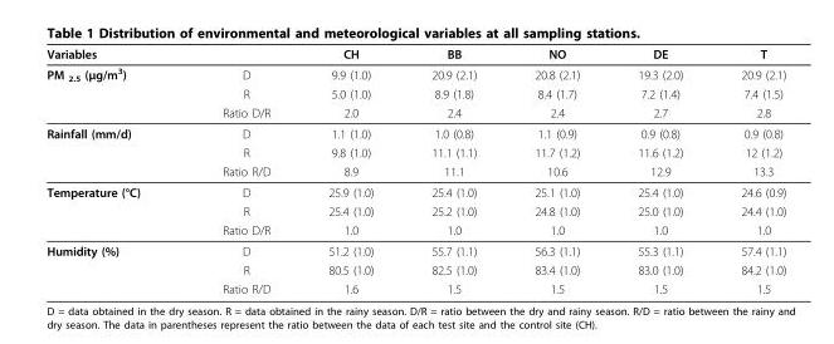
<table><thead><tr><td>Variables</td><td></td><td>CH</td><td>BB</td><td>NO</td><td>DE</td><td>T</td></tr></thead><tbody><tr><td rowspan="3">PM <sub>2.5</sub> (μg/m<sup>3</sup>)</td><td>D</td><td>9.9 (1.0)</td><td>20.9 (2.1)</td><td>20.8 (2.1)</td><td>19.3 (2.0)</td><td>20.9 (2.1)</td></tr><tr><td>R</td><td>5.0 (1.0)</td><td>8.9 (1.8)</td><td>8.4 (1.7)</td><td>7.2 (1.4)</td><td>7.4 (1.5)</td></tr><tr><td>Ratio D/R</td><td>2.0</td><td>2.4</td><td>2.4</td><td>2.7</td><td>2.8</td></tr><tr><td rowspan="3">Rainfall (mm/d)</td><td>D</td><td>1.1 (1.0)</td><td>1.0 (0.8)</td><td>1.1 (0.9)</td><td>0.9 (0.8)</td><td>0.9 (0.8)</td></tr><tr><td>R</td><td>9.8 (1.0)</td><td>11.1 (1.1)</td><td>11.7 (1.2)</td><td>11.6 (1.2)</td><td>12 (1.2)</td></tr><tr><td>Ratio R/D</td><td>8.9</td><td>11.1</td><td>10.6</td><td>12.9</td><td>13.3</td></tr><tr><td rowspan="3">Temperature (°C)</td><td>D</td><td>25.9 (1.0)</td><td>25.4 (1.0)</td><td>25.1 (1.0)</td><td>25.4 (1.0)</td><td>24.6 (0.9)</td></tr><tr><td>R</td><td>25.4 (1.0)</td><td>25.2 (1.0)</td><td>24.8 (1.0)</td><td>25.0 (1.0)</td><td>24.4 (1.0)</td></tr><tr><td>Ratio D/R</td><td>1.0</td><td>1.0</td><td>1.0</td><td>1.0</td><td>1.0</td></tr><tr><td rowspan="3">Humidity (%)</td><td>D</td><td>51.2 (1.0)</td><td>55.7 (1.1)</td><td>56.3 (1.1)</td><td>55.3 (1.1)</td><td>57.4 (1.1)</td></tr><tr><td>R</td><td>80.5 (1.0)</td><td>82.5 (1.0)</td><td>83.4 (1.0)</td><td>83.0 (1.0)</td><td>84.2 (1.0)</td></tr><tr><td>Ratio R/D</td><td>1.6</td><td>1.5</td><td>1.5</td><td>1.5</td><td>1.5</td></tr></tbody></table>